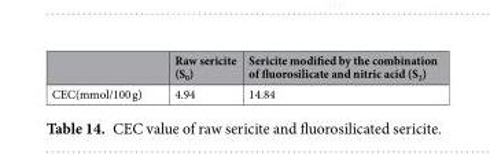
<table><thead><tr><td></td><td>Raw sericite (S<sub>0</sub>)</td><td>Sericite modified by the combination of fluorosilicate and nitric acid (S<sub>2</sub>)</td></tr></thead><tbody><tr><td>CEC(mmol/100 g)</td><td>4.94</td><td>14.84</td></tr></tbody></table>